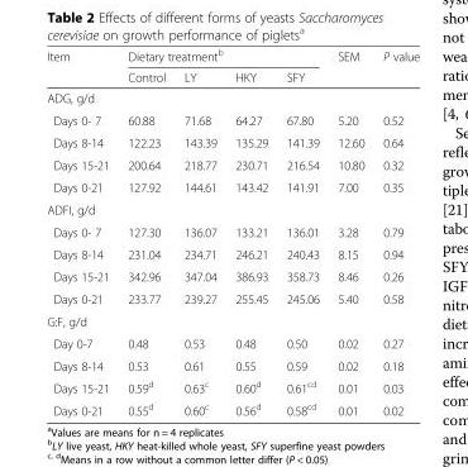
<table><thead><tr><td rowspan="2">Item</td><td colspan="4">Dietary treatment<sup>b</sup></td><td rowspan="2">SEM</td><td rowspan="2">P value</td></tr><tr><td>Control</td><td>LY</td><td>HKY</td><td>SFY</td></tr></thead><tbody><tr><td colspan="7">ADG, g/d</td></tr><tr><td>Days 0- 7</td><td>60.88</td><td>71.68</td><td>64.27</td><td>67.80</td><td>5.20</td><td>0.52</td></tr><tr><td>Days 8-14</td><td>122.23</td><td>143.39</td><td>135.29</td><td>141.39</td><td>12.60</td><td>0.64</td></tr><tr><td>Days 15-21</td><td>200.64</td><td>218.77</td><td>230.71</td><td>216.54</td><td>10.80</td><td>0.32</td></tr><tr><td>Days 0-21</td><td>127.92</td><td>144.61</td><td>143.42</td><td>141.91</td><td>7.00</td><td>0.35</td></tr><tr><td colspan="7">ADFI, g/d</td></tr><tr><td>Days 0- 7</td><td>127.30</td><td>136.07</td><td>133.21</td><td>136.01</td><td>3.28</td><td>0.79</td></tr><tr><td>Days 8-14</td><td>231.04</td><td>234.71</td><td>246.21</td><td>240.43</td><td>8.15</td><td>0.94</td></tr><tr><td>Days 15-21</td><td>342.96</td><td>347.04</td><td>386.93</td><td>358.73</td><td>8.46</td><td>0.26</td></tr><tr><td>Days 0-21</td><td>233.77</td><td>239.27</td><td>255.45</td><td>245.06</td><td>5.40</td><td>0.58</td></tr><tr><td colspan="7">G:F, g/d</td></tr><tr><td>Day 0-7</td><td>0.48</td><td>0.53</td><td>0.48</td><td>0.50</td><td>0.02</td><td>0.27</td></tr><tr><td>Days 8-14</td><td>0.53</td><td>0.61</td><td>0.55</td><td>0.59</td><td>0.02</td><td>0.18</td></tr><tr><td>Days 15-21</td><td>0.59<sup>d</sup></td><td>0.63<sup>c</sup></td><td>0.60<sup>d</sup></td><td>0.61<sup>cd</sup></td><td>0.01</td><td>0.03</td></tr><tr><td>Days 0-21</td><td>0.55<sup>d</sup></td><td>0.60<sup>c</sup></td><td>0.56<sup>d</sup></td><td>0.58<sup>cd</sup></td><td>0.01</td><td>0.02</td></tr></tbody></table>